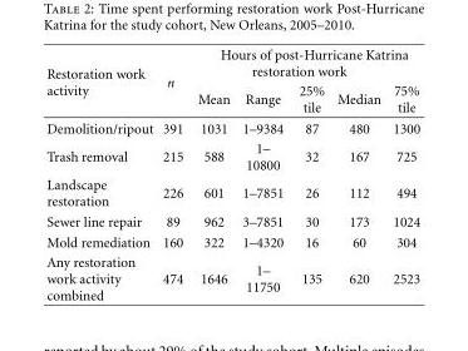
<table><thead><tr><td rowspan="2">Restoration work activity</td><td rowspan="2">n</td><td colspan="5">Hours of post-Hurricane Katrina restoration work</td></tr><tr><td>Mean</td><td>Range</td><td>25% tile</td><td>Median</td><td>75% tile</td></tr></thead><tbody><tr><td>Demolition/ripout</td><td>391</td><td>1031</td><td>1–9384</td><td>87</td><td>480</td><td>1300</td></tr><tr><td>Trash removal</td><td>215</td><td>588</td><td>1– 10800</td><td>32</td><td>167</td><td>725</td></tr><tr><td>Landscape restoration</td><td>226</td><td>601</td><td>1–7851</td><td>26</td><td>112</td><td>494</td></tr><tr><td>Sewer line repair</td><td>89</td><td>962</td><td>3–7851</td><td>30</td><td>173</td><td>1024</td></tr><tr><td>Mold remediation</td><td>160</td><td>322</td><td>1–4320</td><td>16</td><td>60</td><td>304</td></tr><tr><td>Any restoration work activity combined</td><td>474</td><td>1646</td><td>1– 11750</td><td>135</td><td>620</td><td>2523</td></tr></tbody></table>